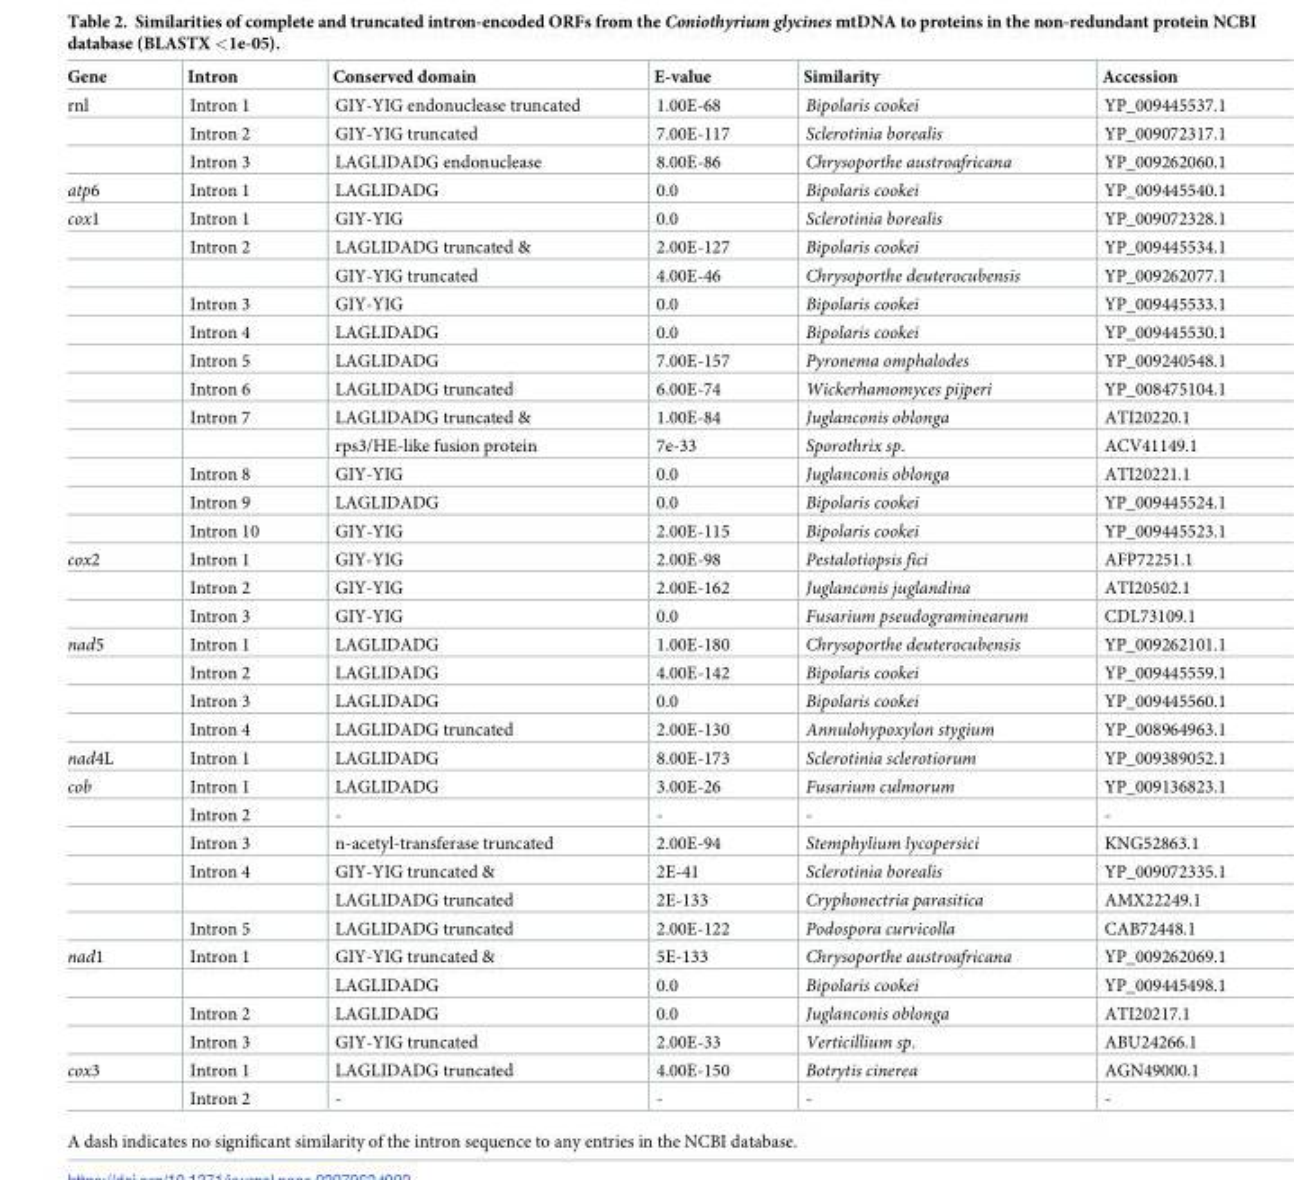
<table><thead><tr><td>Gene</td><td>Intron</td><td>Conserved domain</td><td>E-value</td><td>Similarity</td><td>Accession</td></tr></thead><tbody><tr><td rowspan="3">rnl</td><td>Intron 1</td><td>GIY-YIG endonuclease truncated</td><td>1.00E-68</td><td>Bipolaris cookei</td><td>YP_009445537.1</td></tr><tr><td>Intron 2</td><td>GIY-YIG truncated</td><td>7.00E-117</td><td>Sclerotinia borealis</td><td>YP_009072317.1</td></tr><tr><td>Intron 3</td><td>LAGLIDADG endonuclease</td><td>8.00E-86</td><td>Chrysoporthe austroafricana</td><td>YP_009262060.1</td></tr><tr><td>atp6</td><td>Intron 1</td><td>LAGLIDADG</td><td>0.0</td><td>Bipolaris cookei</td><td>YP_009445540.1</td></tr><tr><td rowspan="12">cox1</td><td>Intron 1</td><td>GIY-YIG</td><td>0.0</td><td>Sclerotinia borealis</td><td>YP_009072328.1</td></tr><tr><td>Intron 2</td><td>LAGLIDADG truncated &amp;</td><td>2.00E-127</td><td>Bipolaris cookei</td><td>YP_009445534.1</td></tr><tr><td></td><td>GIY-YIG truncated</td><td>4.00E-46</td><td>Chrysoporthe deuterocubensis</td><td>YP_009262077.1</td></tr><tr><td>Intron 3</td><td>GIY-YIG</td><td>0.0</td><td>Bipolaris cookei</td><td>YP_009445533.1</td></tr><tr><td>Intron 4</td><td>LAGLIDADG</td><td>0.0</td><td>Bipolaris cookei</td><td>YP_009445530.1</td></tr><tr><td>Intron 5</td><td>LAGLIDADG</td><td>7.00E-157</td><td>Pyronema omphalodes</td><td>YP_009240548.1</td></tr><tr><td>Intron 6</td><td>LAGLIDADG truncated</td><td>6.00E-74</td><td>Wickerhamomyces pijperi</td><td>YP_008475104.1</td></tr><tr><td>Intron 7</td><td>LAGLIDADG truncated &amp;</td><td>1.00E-84</td><td>Juglanconis oblonga</td><td>ATI20220.1</td></tr><tr><td></td><td>rps3/HE-like fusion protein</td><td>7e-33</td><td>Sporothrix sp.</td><td>ACV41149.1</td></tr><tr><td>Intron 8</td><td>GIY-YIG</td><td>0.0</td><td>Juglanconis oblonga</td><td>ATI20221.1</td></tr><tr><td>Intron 9</td><td>LAGLIDADG</td><td>0.0</td><td>Bipolaris cookei</td><td>YP_009445524.1</td></tr><tr><td>Intron 10</td><td>GIY-YIG</td><td>2.00E-115</td><td>Bipolaris cookei</td><td>YP_009445523.1</td></tr><tr><td rowspan="3">cox2</td><td>Intron 1</td><td>GIY-YIG</td><td>2.00E-98</td><td>Pestalotiopsis fici</td><td>AFP72251.1</td></tr><tr><td>Intron 2</td><td>GIY-YIG</td><td>2.00E-162</td><td>Juglanconis juglandina</td><td>ATI20502.1</td></tr><tr><td>Intron 3</td><td>GIY-YIG</td><td>0.0</td><td>Fusarium pseudograminearum</td><td>CDL73109.1</td></tr><tr><td rowspan="4">nad5</td><td>Intron 1</td><td>LAGLIDADG</td><td>1.00E-180</td><td>Chrysoporthe deuterocubensis</td><td>YP_009262101.1</td></tr><tr><td>Intron 2</td><td>LAGLIDADG</td><td>4.00E-142</td><td>Bipolaris cookei</td><td>YP_009445559.1</td></tr><tr><td>Intron 3</td><td>LAGLIDADG</td><td>0.0</td><td>Bipolaris cookei</td><td>YP_009445560.1</td></tr><tr><td>Intron 4</td><td>LAGLIDADG truncated</td><td>2.00E-130</td><td>Annulohypoxylon stygium</td><td>YP_008964963.1</td></tr><tr><td>nad4L</td><td>Intron 1</td><td>LAGLIDADG</td><td>8.00E-173</td><td>Sclerotinia sclerotiorum</td><td>YP_009389052.1</td></tr><tr><td rowspan="6">cob</td><td>Intron 1</td><td>LAGLIDADG</td><td>3.00E-26</td><td>Fusarium culmorum</td><td>YP_009136823.1</td></tr><tr><td>Intron 2</td><td>-</td><td>-</td><td>-</td><td>-</td></tr><tr><td>Intron 3</td><td>n-acetyl-transferase truncated</td><td>2.00E-94</td><td>Stemphylium lycopersici</td><td>KNG52863.1</td></tr><tr><td>Intron 4</td><td>GIY-YIG truncated &amp;</td><td>2E-41</td><td>Sclerotinia borealis</td><td>YP_009072335.1</td></tr><tr><td></td><td>LAGLIDADG truncated</td><td>2E-133</td><td>Cryphonectria parasitica</td><td>AMX22249.1</td></tr><tr><td>Intron 5</td><td>LAGLIDADG truncated</td><td>2.00E-122</td><td>Podospora curvicolla</td><td>CAB72448.1</td></tr><tr><td rowspan="4">nad1</td><td>Intron 1</td><td>GIY-YIG truncated &amp;</td><td>5E-133</td><td>Chrysoporthe austroafricana</td><td>YP_009262069.1</td></tr><tr><td></td><td>LAGLIDADG</td><td>0.0</td><td>Bipolaris cookei</td><td>YP_009445498.1</td></tr><tr><td>Intron 2</td><td>LAGLIDADG</td><td>0.0</td><td>Juglanconis oblonga</td><td>ATI20217.1</td></tr><tr><td>Intron 3</td><td>GIY-YIG truncated</td><td>2.00E-33</td><td>Verticillium sp.</td><td>ABU24266.1</td></tr><tr><td rowspan="2">cox3</td><td>Intron 1</td><td>LAGLIDADG truncated</td><td>4.00E-150</td><td>Botrytis cinerea</td><td>AGN49000.1</td></tr><tr><td>Intron 2</td><td>-</td><td>-</td><td>-</td><td>-</td></tr></tbody></table>